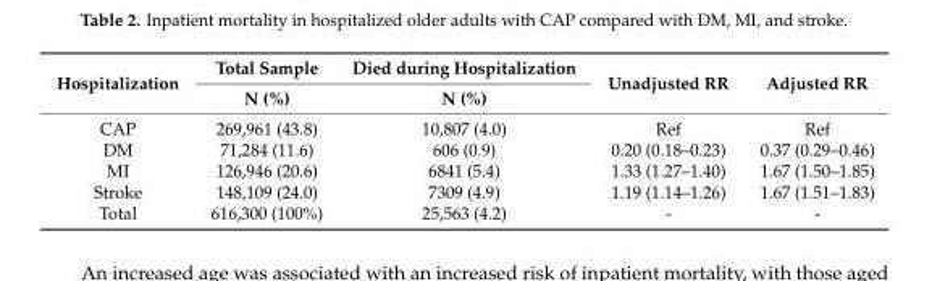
<table><thead><tr><td rowspan="2">Hospitalization</td><td rowspan="2">Total Sample N (%)</td><td rowspan="2">Died during Hospitalization N (%)</td><td rowspan="2">Unadjusted RR</td><td rowspan="2">Adjusted RR</td></tr><tr></tr></thead><tbody><tr><td>CAP</td><td>269,961 (43.8)</td><td>10,807 (4.0)</td><td>Ref</td><td>Ref</td></tr><tr><td>DM</td><td>71,284 (11.6)</td><td>606 (0.9)</td><td>0.20 (0.18–0.23)</td><td>0.37 (0.29–0.46)</td></tr><tr><td>MI</td><td>126,946 (20.6)</td><td>6841 (5.4)</td><td>1.33 (1.27–1.40)</td><td>1.67 (1.50–1.85)</td></tr><tr><td>Stroke</td><td>148,109 (24.0)</td><td>7309 (4.9)</td><td>1.19 (1.14–1.26)</td><td>1.67 (1.51–1.83)</td></tr><tr><td>Total</td><td>616,300 (100%)</td><td>25,563 (4.2)</td><td>-</td><td>-</td></tr></tbody></table>